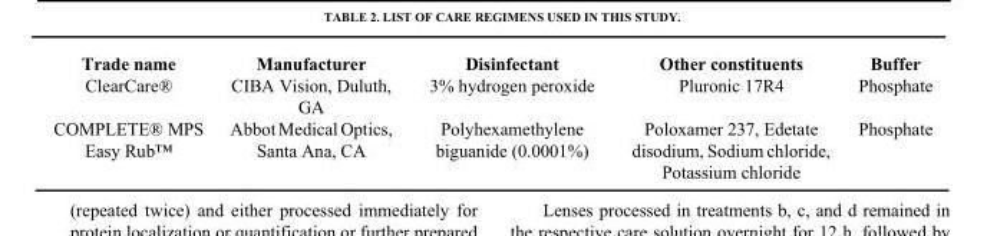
<table><thead><tr><td>Trade name</td><td>Manufacturer</td><td>Disinfectant</td><td>Other constituents</td><td>Buffer</td></tr></thead><tbody><tr><td>ClearCare®</td><td>CIBA Vision, Duluth, GA</td><td>3% hydrogen peroxide</td><td>Pluronic 17R4</td><td>Phosphate</td></tr><tr><td>COMPLETE® MPS Easy Rub™</td><td>Abbot Medical Optics, Santa Ana, CA</td><td>Polyhexamethylene biguanide (0.0001%)</td><td>Poloxamer 237, Edetate disodium, Sodium chloride, Potassium chloride</td><td>Phosphate</td></tr></tbody></table>